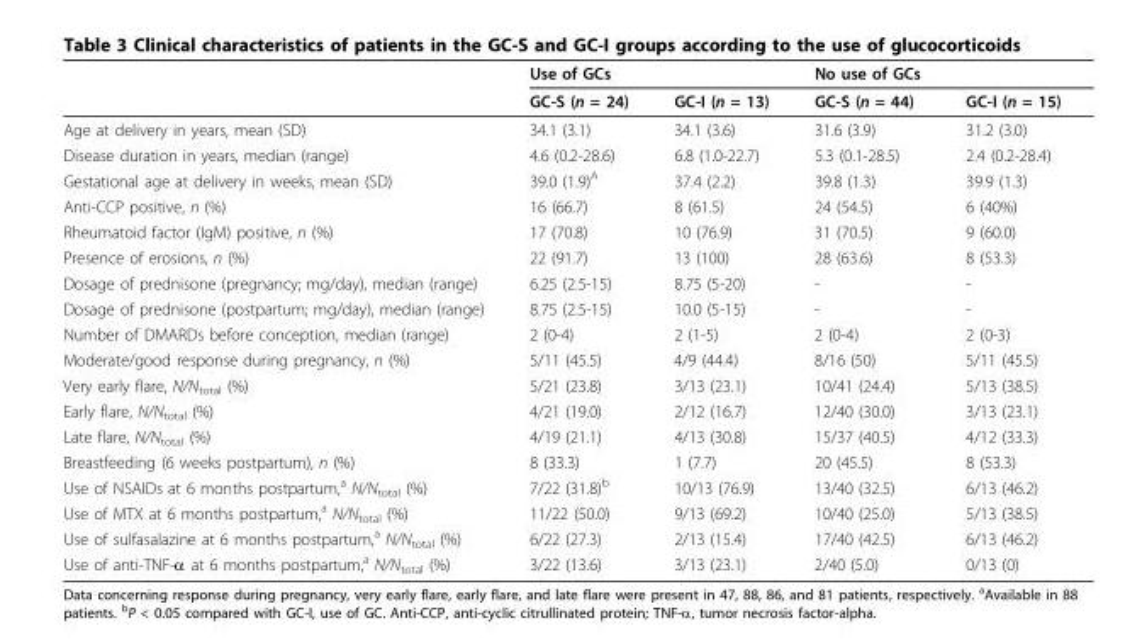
<table><thead><tr><td rowspan="2"></td><td rowspan="2">Use of GCs GC-S (n = 24)</td><td rowspan="2">GC-I (n = 13)</td><td rowspan="2">No use of GCs GC-S (n = 44)</td><td rowspan="2">GC-I (n = 15)</td></tr><tr></tr></thead><tbody><tr><td>Age at delivery in years, mean (SD)</td><td>34.1 (3.1)</td><td>34.1 (3.6)</td><td>31.6 (3.9)</td><td>31.2 (3.0)</td></tr><tr><td>Disease duration in years, median (range)</td><td>4.6 (0.2-28.6)</td><td>6.8 (1.0-22.7)</td><td>5.3 (0.1-28.5)</td><td>2.4 (0.2-28.4)</td></tr><tr><td>Gestational age at delivery in weeks, mean (SD)</td><td>39.0 (1.9)<sup>A</sup></td><td>37.4 (2.2)</td><td>39.8 (1.3)</td><td>39.9 (1.3)</td></tr><tr><td>Anti-CCP positive, n (%)</td><td>16 (66.7)</td><td>8 (61.5)</td><td>24 (54.5)</td><td>6 (40%)</td></tr><tr><td>Rheumatoid factor (IgM) positive, n (%)</td><td>17 (70.8)</td><td>10 (76.9)</td><td>31 (70.5)</td><td>9 (60.0)</td></tr><tr><td>Presence of erosions, n (%)</td><td>22 (91.7)</td><td>13 (100)</td><td>28 (63.6)</td><td>8 (53.3)</td></tr><tr><td>Dosage of prednisone (pregnancy; mg/day), median (range)</td><td>6.25 (2.5-15)</td><td>8.75 (5-20)</td><td>-</td><td>-</td></tr><tr><td>Dosage of prednisone (postpartum; mg/day), median (range)</td><td>8.75 (2.5-15)</td><td>10.0 (5-15)</td><td>-</td><td>-</td></tr><tr><td>Number of DMARDs before conception, median (range)</td><td>2 (0-4)</td><td>2 (1-5)</td><td>2 (0-4)</td><td>2 (0-3)</td></tr><tr><td>Moderate/good response during pregnancy, n (%)</td><td>5/11 (45.5)</td><td>4/9 (44.4)</td><td>8/16 (50)</td><td>5/11 (45.5)</td></tr><tr><td>Very early flare, N/N<sub>total</sub> (%)</td><td>5/21 (23.8)</td><td>3/13 (23.1)</td><td>10/41 (24.4)</td><td>5/13 (38.5)</td></tr><tr><td>Early flare, N/N<sub>total</sub> (%)</td><td>4/21 (19.0)</td><td>2/12 (16.7)</td><td>12/40 (30.0)</td><td>3/13 (23.1)</td></tr><tr><td>Late flare, N/N<sub>total</sub> (%)</td><td>4/19 (21.1)</td><td>4/13 (30.8)</td><td>15/37 (40.5)</td><td>4/12 (33.3)</td></tr><tr><td>Breastfeeding (6 weeks postpartum), n (%)</td><td>8 (33.3)</td><td>1 (7.7)</td><td>20 (45.5)</td><td>8 (53.3)</td></tr><tr><td>Use of NSAIDs at 6 months postpartum,<sup>a</sup> N/N<sub>total</sub> (%)</td><td>7/22 (31.8)<sup>b</sup></td><td>10/13 (76.9)</td><td>13/40 (32.5)</td><td>6/13 (46.2)</td></tr><tr><td>Use of MTX at 6 months postpartum,<sup>a</sup> N/N<sub>total</sub> (%)</td><td>11/22 (50.0)</td><td>9/13 (69.2)</td><td>10/40 (25.0)</td><td>5/13 (38.5)</td></tr><tr><td>Use of sulfasalazine at 6 months postpartum,<sup>a</sup> N/N<sub>total</sub> (%)</td><td>6/22 (27.3)</td><td>2/13 (15.4)</td><td>17/40 (42.5)</td><td>6/13 (46.2)</td></tr><tr><td>Use of anti-TNF-α at 6 months postpartum,<sup>a</sup> N/N<sub>total</sub> (%)</td><td>3/22 (13.6)</td><td>3/13 (23.1)</td><td>2/40 (5.0)</td><td>0/13 (0)</td></tr></tbody></table>